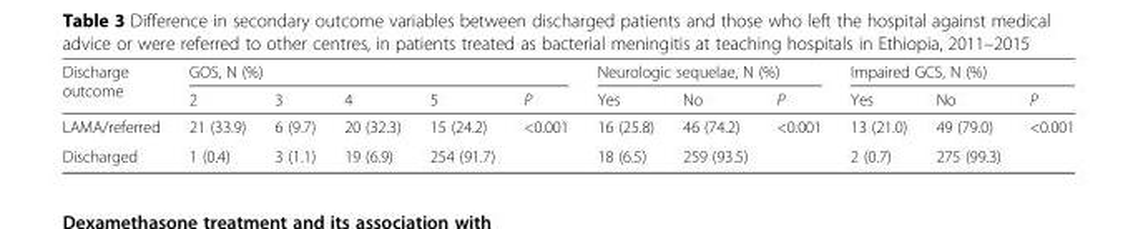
<table><thead><tr><td rowspan="2">Discharge outcome</td><td colspan="5">GOS, N (%)</td><td colspan="3">Neurologic sequelae, N (%)</td><td colspan="3">Impaired GCS, N (%)</td></tr><tr><td>2</td><td>3</td><td>4</td><td>5</td><td>P</td><td>Yes</td><td>No</td><td>P</td><td>Yes</td><td>No</td><td>P</td></tr></thead><tbody><tr><td>LAMA/referred</td><td>21 (33.9)</td><td>6 (9.7)</td><td>20 (32.3)</td><td>15 (24.2)</td><td rowspan="2">&lt;0.001</td><td>16 (25.8)</td><td>46 (74.2)</td><td rowspan="2">&lt;0.001</td><td>13 (21.0)</td><td>49 (79.0)</td><td rowspan="2">&lt;0.001</td></tr><tr><td>Discharged</td><td>1 (0.4)</td><td>3 (1.1)</td><td>19 (6.9)</td><td>254 (91.7)</td><td>18 (6.5)</td><td>259 (93.5)</td><td>2 (0.7)</td><td>275 (99.3)</td></tr></tbody></table>